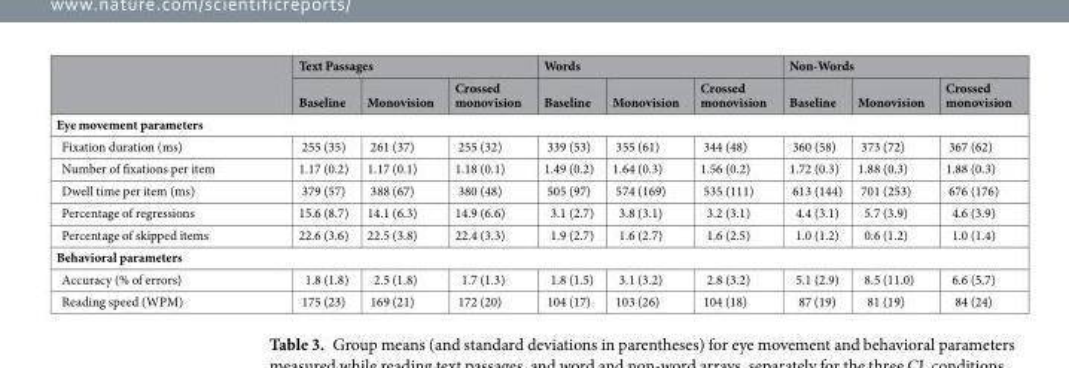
<table><thead><tr><td rowspan="2"></td><td colspan="3">Text Passages</td><td colspan="3">Words</td><td colspan="3">Non-Words</td></tr><tr><td>Baseline</td><td>Monovision</td><td>Crossed monovision</td><td>Baseline</td><td>Monovision</td><td>Crossed monovision</td><td>Baseline</td><td>Monovision</td><td>Crossed monovision</td></tr></thead><tbody><tr><td colspan="10">Eye movement parameters</td></tr><tr><td>Fixation duration (ms)</td><td>255 (35)</td><td>261 (37)</td><td>255 (32)</td><td>339 (53)</td><td>355 (61)</td><td>344 (48)</td><td>360 (58)</td><td>373 (72)</td><td>367 (62)</td></tr><tr><td>Number of fixations per item</td><td>1.17 (0.2)</td><td>1.17 (0.1)</td><td>1.18 (0.1)</td><td>1.49 (0.2)</td><td>1.64 (0.3)</td><td>1.56 (0.2)</td><td>1.72 (0.3)</td><td>1.88 (0.3)</td><td>1.88 (0.3)</td></tr><tr><td>Dwell time per item (ms)</td><td>379 (57)</td><td>388 (67)</td><td>380 (48)</td><td>505 (97)</td><td>574 (169)</td><td>535 (111)</td><td>613 (144)</td><td>701 (253)</td><td>676 (176)</td></tr><tr><td>Percentage of regressions</td><td>15.6 (8.7)</td><td>14.1 (6.3)</td><td>14.9 (6.6)</td><td>3.1 (2.7)</td><td>3.8 (3.1)</td><td>3.2 (3.1)</td><td>4.4 (3.1)</td><td>5.7 (3.9)</td><td>4.6 (3.9)</td></tr><tr><td>Percentage of skipped items</td><td>22.6 (3.6)</td><td>22.5 (3.8)</td><td>22.4 (3.3)</td><td>1.9 (2.7)</td><td>1.6 (2.7)</td><td>1.6 (2.5)</td><td>1.0 (1.2)</td><td>0.6 (1.2)</td><td>1.0 (1.4)</td></tr><tr><td colspan="10">Behavioral parameters</td></tr><tr><td>Accuracy (% of errors)</td><td>1.8 (1.8)</td><td>2.5 (1.8)</td><td>1.7 (1.3)</td><td>1.8 (1.5)</td><td>3.1 (3.2)</td><td>2.8 (3.2)</td><td>5.1 (2.9)</td><td>8.5 (11.0)</td><td>6.6 (5.7)</td></tr><tr><td>Reading speed (WPM)</td><td>175 (23)</td><td>169 (21)</td><td>172 (20)</td><td>104 (17)</td><td>103 (26)</td><td>104 (18)</td><td>87 (19)</td><td>81 (19)</td><td>84 (24)</td></tr></tbody></table>